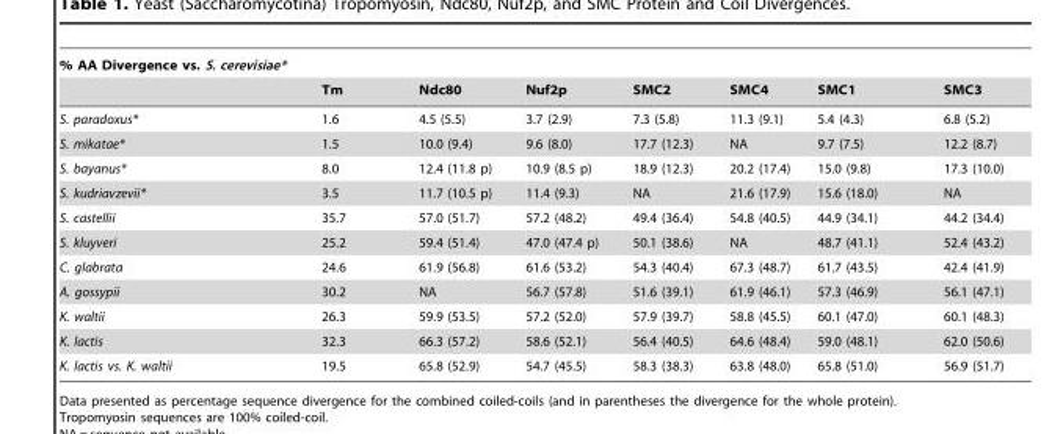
<table><thead><tr><td rowspan="2">% AA Divergence vs. S. cerevisiae*</td><td rowspan="2">Tm</td><td rowspan="2">Ndc80</td><td rowspan="2">Nuf2p</td><td rowspan="2">SMC2</td><td rowspan="2">SMC4</td><td rowspan="2">SMC1</td><td rowspan="2">SMC3</td></tr><tr></tr></thead><tbody><tr><td>S. paradoxus*</td><td>1.6</td><td>4.5 (5.5)</td><td>3.7 (2.9)</td><td>7.3 (5.8)</td><td>11.3 (9.1)</td><td>5.4 (4.3)</td><td>6.8 (5.2)</td></tr><tr><td>S. mikatae*</td><td>1.5</td><td>10.0 (9.4)</td><td>9.6 (8.0)</td><td>17.7 (12.3)</td><td>NA</td><td>9.7 (7.5)</td><td>12.2 (8.7)</td></tr><tr><td>S. bayanus*</td><td>8.0</td><td>12.4 (11.8 p)</td><td>10.9 (8.5 p)</td><td>18.9 (12.3)</td><td>20.2 (17.4)</td><td>15.0 (9.8)</td><td>17.3 (10.0)</td></tr><tr><td>S. kudriavzevii*</td><td>3.5</td><td>11.7 (10.5 p)</td><td>11.4 (9.3)</td><td>NA</td><td>21.6 (17.9)</td><td>15.6 (18.0)</td><td>NA</td></tr><tr><td>S. castellii</td><td>35.7</td><td>57.0 (51.7)</td><td>57.2 (48.2)</td><td>49.4 (36.4)</td><td>54.8 (40.5)</td><td>44.9 (34.1)</td><td>44.2 (34.4)</td></tr><tr><td>S. kluyveri</td><td>25.2</td><td>59.4 (51.4)</td><td>47.0 (47.4 p)</td><td>50.1 (38.6)</td><td>NA</td><td>48.7 (41.1)</td><td>52.4 (43.2)</td></tr><tr><td>C. glabrata</td><td>24.6</td><td>61.9 (56.8)</td><td>61.6 (53.2)</td><td>54.3 (40.4)</td><td>67.3 (48.7)</td><td>61.7 (43.5)</td><td>42.4 (41.9)</td></tr><tr><td>A. gossypii</td><td>30.2</td><td>NA</td><td>56.7 (57.8)</td><td>51.6 (39.1)</td><td>61.9 (46.1)</td><td>57.3 (46.9)</td><td>56.1 (47.1)</td></tr><tr><td>K. waltii</td><td>26.3</td><td>59.9 (53.5)</td><td>57.2 (52.0)</td><td>57.9 (39.7)</td><td>58.8 (45.5)</td><td>60.1 (47.0)</td><td>60.1 (48.3)</td></tr><tr><td>K. lactis</td><td>32.3</td><td>66.3 (57.2)</td><td>58.6 (52.1)</td><td>56.4 (40.5)</td><td>64.6 (48.4)</td><td>59.0 (48.1)</td><td>62.0 (50.6)</td></tr><tr><td>K. lactis vs. K. waltii</td><td>19.5</td><td>65.8 (52.9)</td><td>54.7 (45.5)</td><td>58.3 (38.3)</td><td>63.8 (48.0)</td><td>65.8 (51.0)</td><td>56.9 (51.7)</td></tr></tbody></table>